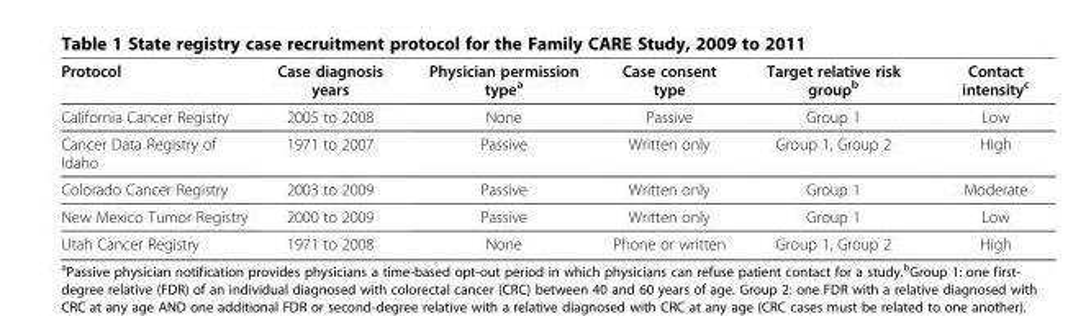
<table><thead><tr><td>Protocol</td><td>Case diagnosis years</td><td>Physician permission type<sup>a</sup></td><td>Case consent type</td><td>Target relative risk group<sup>b</sup></td><td>Contact intensity<sup>c</sup></td></tr></thead><tbody><tr><td>California Cancer Registry</td><td>2005 to 2008</td><td>None</td><td>Passive</td><td>Group 1</td><td>Low</td></tr><tr><td>Cancer Data Registry of Idaho</td><td>1971 to 2007</td><td>Passive</td><td>Written only</td><td>Group 1, Group 2</td><td>High</td></tr><tr><td>Colorado Cancer Registry</td><td>2003 to 2009</td><td>Passive</td><td>Written only</td><td>Group 1</td><td>Moderate</td></tr><tr><td>New Mexico Tumor Registry</td><td>2000 to 2009</td><td>Passive</td><td>Written only</td><td>Group 1</td><td>Low</td></tr><tr><td>Utah Cancer Registry</td><td>1971 to 2008</td><td>None</td><td>Phone or written</td><td>Group 1, Group 2</td><td>High</td></tr></tbody></table>